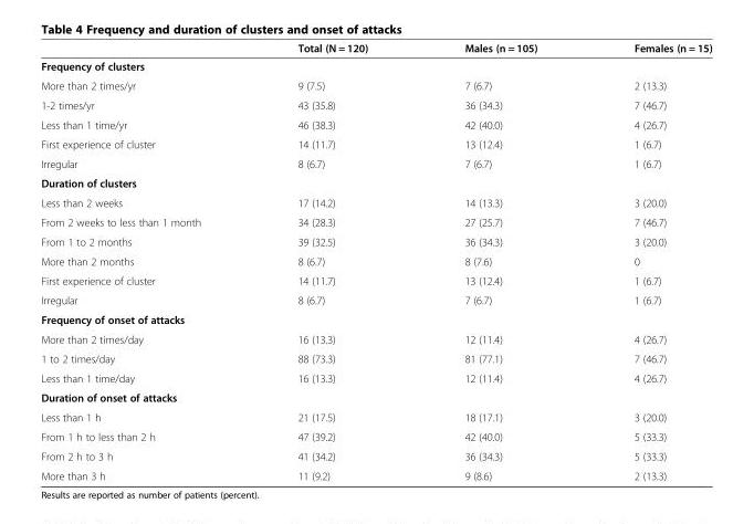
<table><thead><tr><td></td><td>Total (N = 120)</td><td>Males (n = 105)</td><td>Females (n = 15)</td></tr></thead><tbody><tr><td colspan="4">Frequency of clusters</td></tr><tr><td>More than 2 times/yr</td><td>9 (7.5)</td><td>7 (6.7)</td><td>2 (13.3)</td></tr><tr><td>1-2 times/yr</td><td>43 (35.8)</td><td>36 (34.3)</td><td>7 (46.7)</td></tr><tr><td>Less than 1 time/yr</td><td>46 (38.3)</td><td>42 (40.0)</td><td>4 (26.7)</td></tr><tr><td>First experience of cluster</td><td>14 (11.7)</td><td>13 (12.4)</td><td>1 (6.7)</td></tr><tr><td>Irregular</td><td>8 (6.7)</td><td>7 (6.7)</td><td>1 (6.7)</td></tr><tr><td colspan="4">Duration of clusters</td></tr><tr><td>Less than 2 weeks</td><td>17 (14.2)</td><td>14 (13.3)</td><td>3 (20.0)</td></tr><tr><td>From 2 weeks to less than 1 month</td><td>34 (28.3)</td><td>27 (25.7)</td><td>7 (46.7)</td></tr><tr><td>From 1 to 2 months</td><td>39 (32.5)</td><td>36 (34.3)</td><td>3 (20.0)</td></tr><tr><td>More than 2 months</td><td>8 (6.7)</td><td>8 (7.6)</td><td>0</td></tr><tr><td>First experience of cluster</td><td>14 (11.7)</td><td>13 (12.4)</td><td>1 (6.7)</td></tr><tr><td>Irregular</td><td>8 (6.7)</td><td>7 (6.7)</td><td>1 (6.7)</td></tr><tr><td colspan="4">Frequency of onset of attacks</td></tr><tr><td>More than 2 times/day</td><td>16 (13.3)</td><td>12 (11.4)</td><td>4 (26.7)</td></tr><tr><td>1 to 2 times/day</td><td>88 (73.3)</td><td>81 (77.1)</td><td>7 (46.7)</td></tr><tr><td>Less than 1 time/day</td><td>16 (13.3)</td><td>12 (11.4)</td><td>4 (26.7)</td></tr><tr><td colspan="4">Duration of onset of attacks</td></tr><tr><td>Less than 1 h</td><td>21 (17.5)</td><td>18 (17.1)</td><td>3 (20.0)</td></tr><tr><td>From 1 h to less than 2 h</td><td>47 (39.2)</td><td>42 (40.0)</td><td>5 (33.3)</td></tr><tr><td>From 2 h to 3 h</td><td>41 (34.2)</td><td>36 (34.3)</td><td>5 (33.3)</td></tr><tr><td>More than 3 h</td><td>11 (9.2)</td><td>9 (8.6)</td><td>2 (13.3)</td></tr></tbody></table>